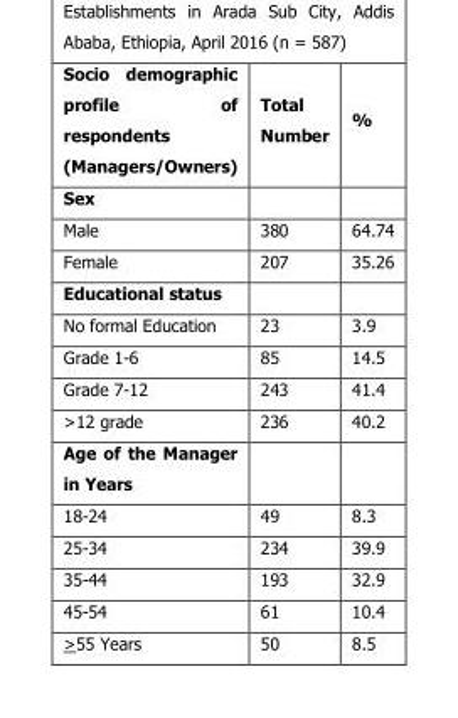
<table><thead><tr><td>Socio demographic profile of respondents (Managers/Owners)</td><td>Total Number</td><td>%</td></tr></thead><tbody><tr><td colspan="3">Sex</td></tr><tr><td>Male</td><td>380</td><td>64.74</td></tr><tr><td>Female</td><td>207</td><td>35.26</td></tr><tr><td colspan="3">Educational status</td></tr><tr><td>No formal Education</td><td>23</td><td>3.9</td></tr><tr><td>Grade 1-6</td><td>85</td><td>14.5</td></tr><tr><td>Grade 7-12</td><td>243</td><td>41.4</td></tr><tr><td>&gt;12 grade</td><td>236</td><td>40.2</td></tr><tr><td colspan="3">Age of the Manager in Years</td></tr><tr><td>18-24</td><td>49</td><td>8.3</td></tr><tr><td>25-34</td><td>234</td><td>39.9</td></tr><tr><td>35-44</td><td>193</td><td>32.9</td></tr><tr><td>45-54</td><td>61</td><td>10.4</td></tr><tr><td>&gt;55 Years</td><td>50</td><td>8.5</td></tr></tbody></table>